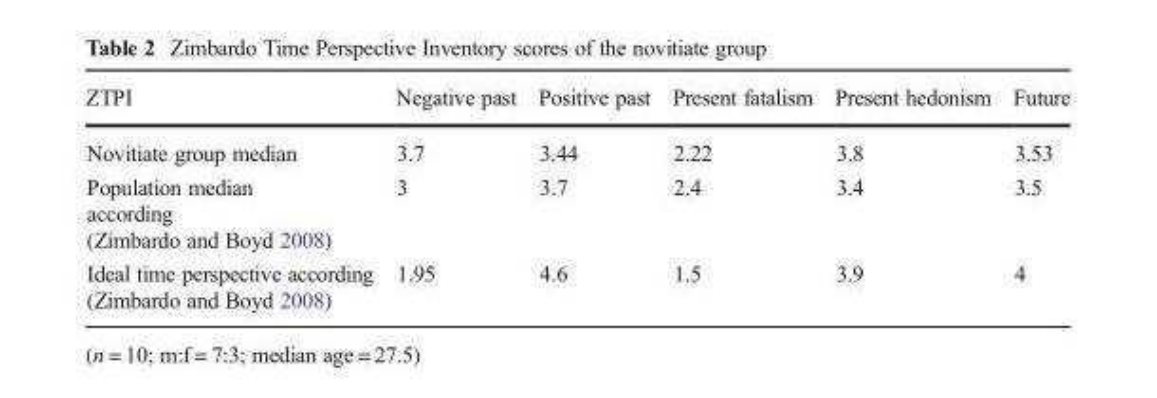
<table><thead><tr><td>ZTPI</td><td>Negative past</td><td>Positive past</td><td>Present fatalism</td><td>Present hedonism</td><td>Future</td></tr></thead><tbody><tr><td>Novitiate group median</td><td>3.7</td><td>3.44</td><td>2.22</td><td>3.8</td><td>3.53</td></tr><tr><td>Population median according (Zimbardo and Boyd 2008)</td><td>3</td><td>3.7</td><td>2.4</td><td>3.4</td><td>3.5</td></tr><tr><td>Ideal time perspective according (Zimbardo and Boyd 2008)</td><td>1.95</td><td>4.6</td><td>1.5</td><td>3.9</td><td>4</td></tr></tbody></table>